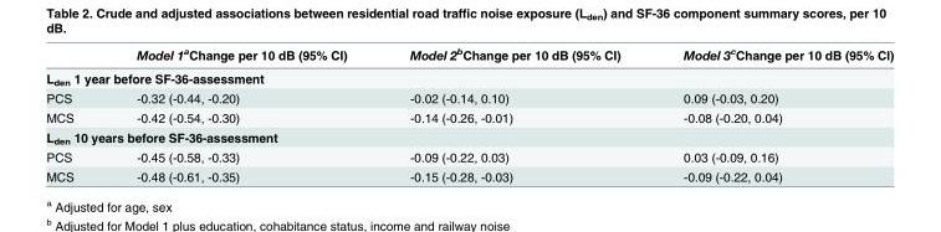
<table><thead><tr><td></td><td>Model 1<sup>a</sup>Change per 10 dB (95% CI)</td><td>Model 2<sup>b</sup>Change per 10 dB (95% CI)</td><td>Model 3<sup>c</sup>Change per 10 dB (95% CI)</td></tr></thead><tbody><tr><td colspan="4">L<sub>den</sub> 1 year before SF-36-assessment</td></tr><tr><td>PCS</td><td>-0.32 (-0.44, -0.20)</td><td>-0.02 (-0.14, 0.10)</td><td>0.09 (-0.03, 0.20)</td></tr><tr><td>MCS</td><td>-0.42 (-0.54, -0.30)</td><td>-0.14 (-0.26, -0.01)</td><td>-0.08 (-0.20, 0.04)</td></tr><tr><td colspan="4">L<sub>den</sub> 10 years before SF-36-assessment</td></tr><tr><td>PCS</td><td>-0.45 (-0.58, -0.33)</td><td>-0.09 (-0.22, 0.03)</td><td>0.03 (-0.09, 0.16)</td></tr><tr><td>MCS</td><td>-0.48 (-0.61, -0.35)</td><td>-0.15 (-0.28, -0.03)</td><td>-0.09 (-0.22, 0.04)</td></tr></tbody></table>